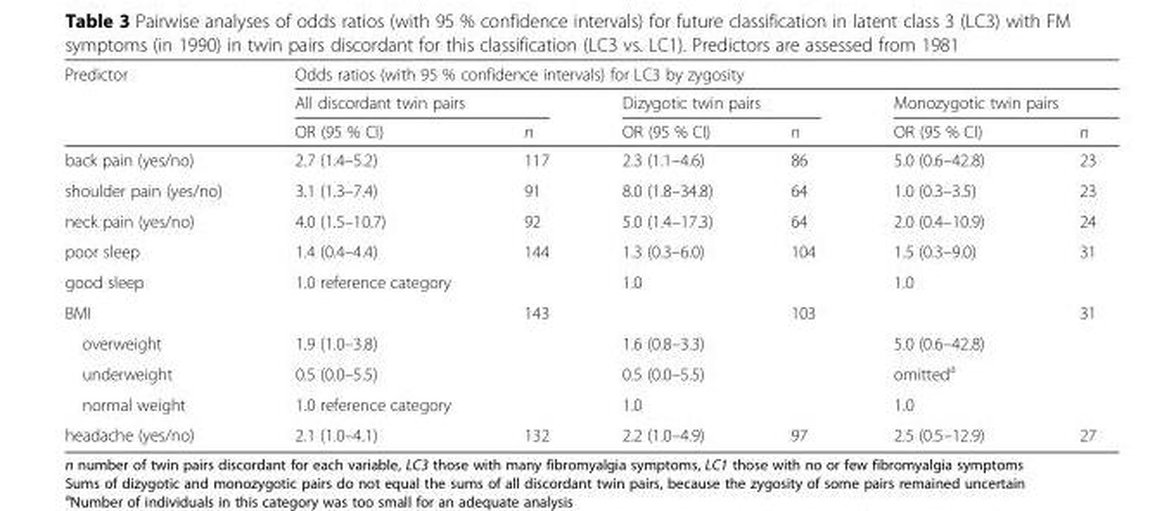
<table><thead><tr><td rowspan="3">Predictor</td><td colspan="6">Odds ratios (with 95 % confidence intervals) for LC3 by zygosity</td></tr><tr><td colspan="2">All discordant twin pairs</td><td colspan="2">Dizygotic twin pairs</td><td colspan="2">Monozygotic twin pairs</td></tr><tr><td>OR (95 % CI)</td><td>n</td><td>OR (95 % CI)</td><td>n</td><td>OR (95 % CI)</td><td>n</td></tr></thead><tbody><tr><td>back pain (yes/no)</td><td>2.7 (1.4–5.2)</td><td>117</td><td>2.3 (1.1–4.6)</td><td>86</td><td>5.0 (0.6–42.8)</td><td>23</td></tr><tr><td>shoulder pain (yes/no)</td><td>3.1 (1.3–7.4)</td><td>91</td><td>8.0 (1.8–34.8)</td><td>64</td><td>1.0 (0.3–3.5)</td><td>23</td></tr><tr><td>neck pain (yes/no)</td><td>4.0 (1.5–10.7)</td><td>92</td><td>5.0 (1.4–17.3)</td><td>64</td><td>2.0 (0.4–10.9)</td><td>24</td></tr><tr><td>poor sleep</td><td>1.4 (0.4–4.4)</td><td>144</td><td>1.3 (0.3–6.0)</td><td>104</td><td>1.5 (0.3–9.0)</td><td>31</td></tr><tr><td>good sleep</td><td>1.0 reference category</td><td></td><td>1.0</td><td></td><td>1.0</td><td></td></tr><tr><td>BMI</td><td></td><td>143</td><td></td><td>103</td><td></td><td>31</td></tr><tr><td>overweight</td><td>1.9 (1.0–3.8)</td><td></td><td>1.6 (0.8–3.3)</td><td></td><td>5.0 (0.6–42.8)</td><td></td></tr><tr><td>underweight</td><td>0.5 (0.0–5.5)</td><td></td><td>0.5 (0.0–5.5)</td><td></td><td>omitted<sup>a</sup></td><td></td></tr><tr><td>normal weight</td><td>1.0 reference category</td><td></td><td>1.0</td><td></td><td>1.0</td><td></td></tr><tr><td>headache (yes/no)</td><td>2.1 (1.0–4.1)</td><td>132</td><td>2.2 (1.0–4.9)</td><td>97</td><td>2.5 (0.5–12.9)</td><td>27</td></tr></tbody></table>